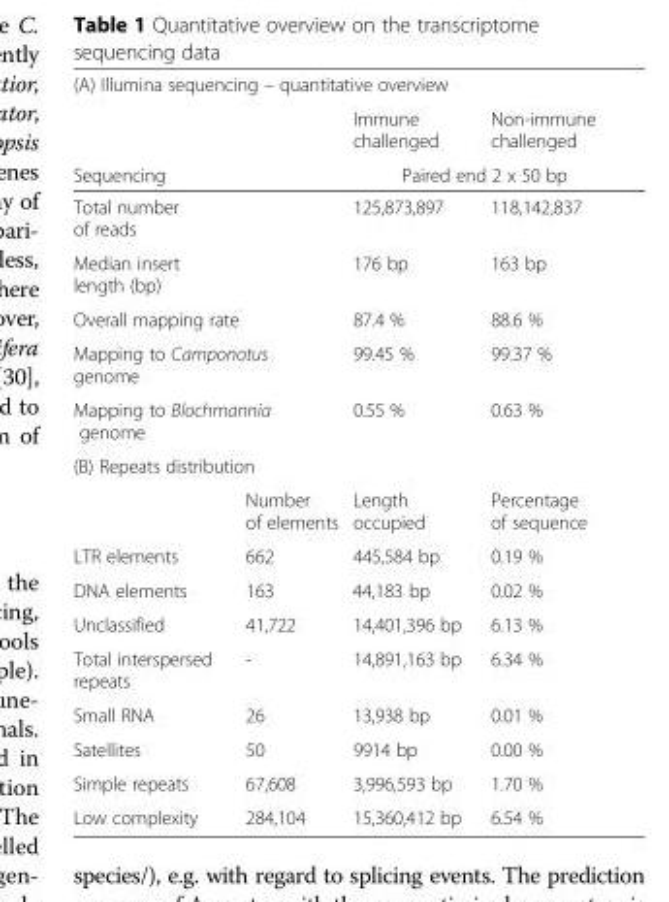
<table><tbody><tr><td colspan="4">(A) Illumina sequencing – quantitative overview</td></tr><tr><td colspan="2"></td><td>Immune challenged</td><td>Non-immune challenged</td></tr><tr><td colspan="2">Sequencing</td><td colspan="2">Paired end 2 x 50 bp</td></tr><tr><td colspan="2">Total number of reads</td><td>125,873,897</td><td>118,142,837</td></tr><tr><td colspan="2">Median insert length (bp)</td><td>176 bp</td><td>163 bp</td></tr><tr><td colspan="2">Overall mapping rate</td><td>87.4 %</td><td>88.6 %</td></tr><tr><td colspan="2">Mapping to Camponotus genome</td><td>99.45 %</td><td>99.37 %</td></tr><tr><td colspan="2">Mapping to Blochmannia genome</td><td>0.55 %</td><td>0.63 %</td></tr><tr><td colspan="4">(B) Repeats distribution</td></tr><tr><td></td><td>Number of elements</td><td>Length occupied</td><td>Percentage of sequence</td></tr><tr><td>LTR elements</td><td>662</td><td>445,584 bp</td><td>0.19 %</td></tr><tr><td>DNA elements</td><td>163</td><td>44,183 bp</td><td>0.02 %</td></tr><tr><td>Unclassified</td><td>41,722</td><td>14,401,396 bp</td><td>6.13 %</td></tr><tr><td>Total interspersed repeats</td><td>-</td><td>14,891,163 bp</td><td>6.34 %</td></tr><tr><td>Small RNA</td><td>26</td><td>13,938 bp</td><td>0.01 %</td></tr><tr><td>Satellites</td><td>50</td><td>9914 bp</td><td>0.00 %</td></tr><tr><td>Simple repeats</td><td>67,608</td><td>3,996,593 bp</td><td>1.70 %</td></tr><tr><td>Low complexity</td><td>284,104</td><td>15,360,412 bp</td><td>6.54 %</td></tr></tbody></table>